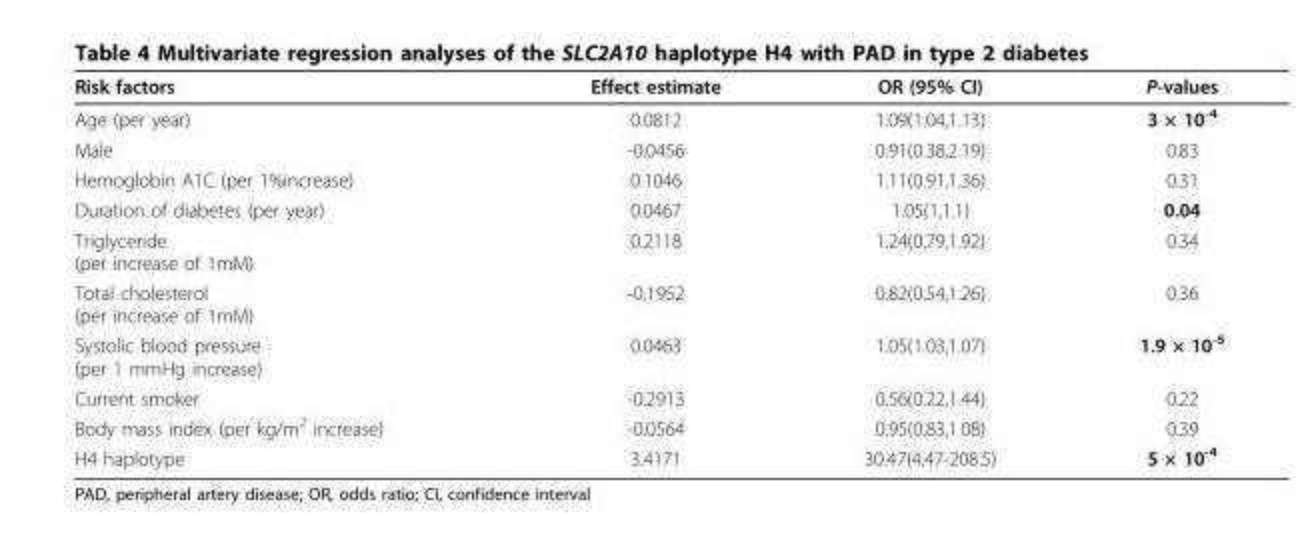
<table><thead><tr><td>Risk factors</td><td>Effect estimate</td><td>OR (95% CI)</td><td>P-values</td></tr></thead><tbody><tr><td>Age (per year)</td><td>0.0812</td><td>1.09(1.04,1.13)</td><td>3 × 10<sup>-4</sup></td></tr><tr><td>Male</td><td>-0.0456</td><td>0.91(0.38,2.19)</td><td>0.83</td></tr><tr><td>Hemoglobin A1C (per 1%increase)</td><td>0.1046</td><td>1.11(0.91,1.36)</td><td>0.31</td></tr><tr><td>Duration of diabetes (per year)</td><td>0.0467</td><td>1.05(1,1.1)</td><td>0.04</td></tr><tr><td>Triglyceride (per increase of 1mM)</td><td>0.2118</td><td>1.24(0.79,1.92)</td><td>0.34</td></tr><tr><td>Total cholesterol (per increase of 1mM)</td><td>-0.1952</td><td>0.82(0.54,1.26)</td><td>0.36</td></tr><tr><td>Systolic blood pressure (per 1 mmHg increase)</td><td>0.0463</td><td>1.05(1.03,1.07)</td><td>1.9 × 10<sup>-5</sup></td></tr><tr><td>Current smoker</td><td>-0.2913</td><td>0.56(0.22,1.44)</td><td>0.22</td></tr><tr><td>Body mass index (per kg/m<sup>2</sup> increase)</td><td>-0.0564</td><td>0.95(0.83,1.08)</td><td>0.39</td></tr><tr><td>H4 haplotype</td><td>3.4171</td><td>30.47(4.47-208.5)</td><td>5 × 10<sup>-4</sup></td></tr></tbody></table>